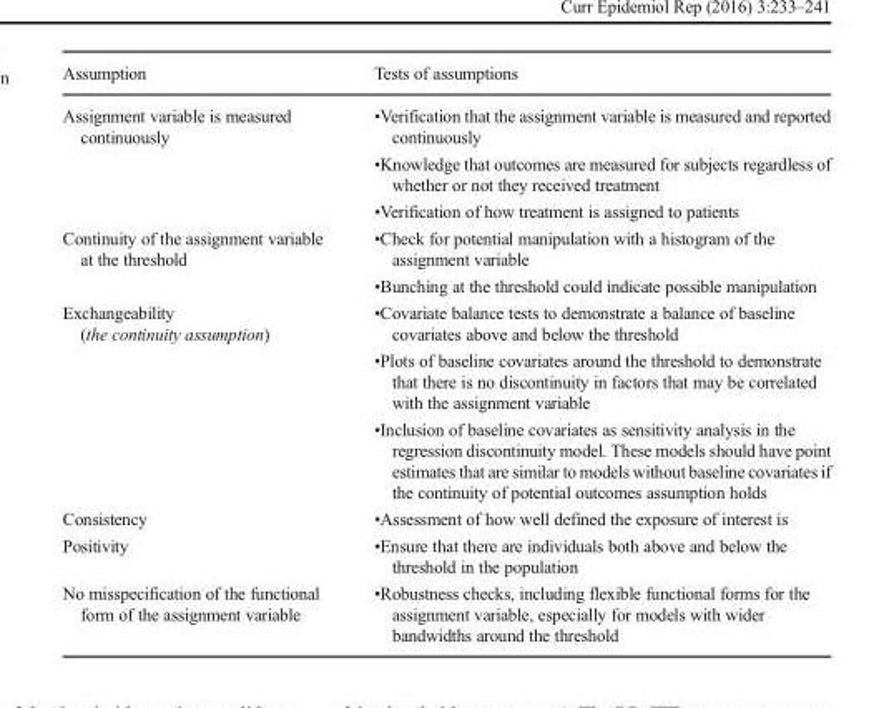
<table><thead><tr><td>Assumption</td><td>Tests of assumptions</td></tr></thead><tbody><tr><td>Assignment variable is measured continuously</td><td>•Verification that the assignment variable is measured and reported continuously •Knowledge that outcomes are measured for subjects regardless of whether or not they received treatment •Verification of how treatment is assigned to patients</td></tr><tr><td>Continuity of the assignment variable at the threshold</td><td>•Check for potential manipulation with a histogram of the assignment variable •Bunching at the threshold could indicate possible manipulation</td></tr><tr><td>Exchangeability (the continuity assumption)</td><td>•Covariate balance tests to demonstrate a balance of baseline covariates above and below the threshold •Plots of baseline covariates around the threshold to demonstrate that there is no discontinuity in factors that may be correlated with the assignment variable •Inclusion of baseline covariates as sensitivity analysis in the regression discontinuity model. These models should have point estimates that are similar to models without baseline covariates if the continuity of potential outcomes assumption holds</td></tr><tr><td>Consistency</td><td>•Assessment of how well defined the exposure of interest is</td></tr><tr><td>Positivity</td><td>•Ensure that there are individuals both above and below the threshold in the population</td></tr><tr><td>No misspecification of the functional form of the assignment variable</td><td>•Robustness checks, including flexible functional forms for the assignment variable, especially for models with wider bandwidths around the threshold</td></tr></tbody></table>